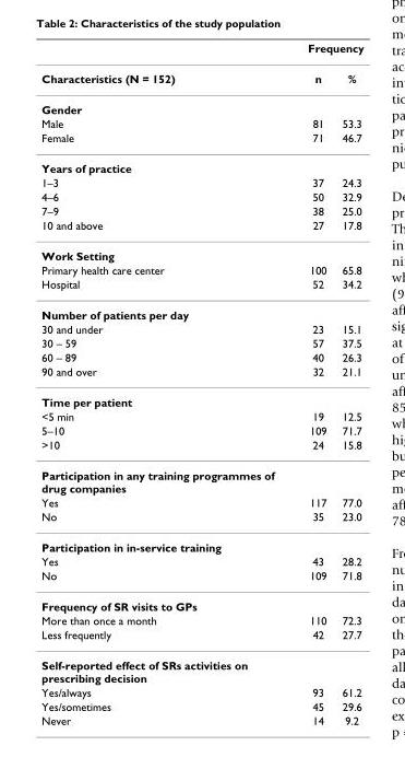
<table><thead><tr><td rowspan="2">Characteristics (N = 152)</td><td colspan="2">Frequency</td></tr><tr><td>n</td><td>%</td></tr></thead><tbody><tr><td colspan="3">Gender</td></tr><tr><td>Male</td><td>81</td><td>53.3</td></tr><tr><td>Female</td><td>71</td><td>46.7</td></tr><tr><td colspan="3">Years of practice</td></tr><tr><td>1–3</td><td>37</td><td>24.3</td></tr><tr><td>4–6</td><td>50</td><td>32.9</td></tr><tr><td>7–9</td><td>38</td><td>25.0</td></tr><tr><td>10 and above</td><td>27</td><td>17.8</td></tr><tr><td colspan="3">Work Setting</td></tr><tr><td>Primary health care center</td><td>100</td><td>65.8</td></tr><tr><td>Hospital</td><td>52</td><td>34.2</td></tr><tr><td colspan="3">Number of patients per day</td></tr><tr><td>30 and under</td><td>23</td><td>15.1</td></tr><tr><td>30 – 59</td><td>57</td><td>37.5</td></tr><tr><td>60 – 89</td><td>40</td><td>26.3</td></tr><tr><td>90 and over</td><td>32</td><td>21.1</td></tr><tr><td colspan="3">Time per patient</td></tr><tr><td>&lt;5 min</td><td>19</td><td>12.5</td></tr><tr><td>5–10</td><td>109</td><td>71.7</td></tr><tr><td>&gt;10</td><td>24</td><td>15.8</td></tr><tr><td colspan="3">Participation in any training programmes of drug companies</td></tr><tr><td>Yes</td><td>117</td><td>77.0</td></tr><tr><td>No</td><td>35</td><td>23.0</td></tr><tr><td colspan="3">Participation in in-service training</td></tr><tr><td>Yes</td><td>43</td><td>28.2</td></tr><tr><td>No</td><td>109</td><td>71.8</td></tr><tr><td colspan="3">Frequency of SR visits to GPs</td></tr><tr><td>More than once a month</td><td>110</td><td>72.3</td></tr><tr><td>Less frequently</td><td>42</td><td>27.7</td></tr><tr><td colspan="3">Self-reported effect of SRs activities on prescribing decision</td></tr><tr><td>Yes/always</td><td>93</td><td>61.2</td></tr><tr><td>Yes/sometimes</td><td>45</td><td>29.6</td></tr><tr><td>Never</td><td>14</td><td>9.2</td></tr></tbody></table>